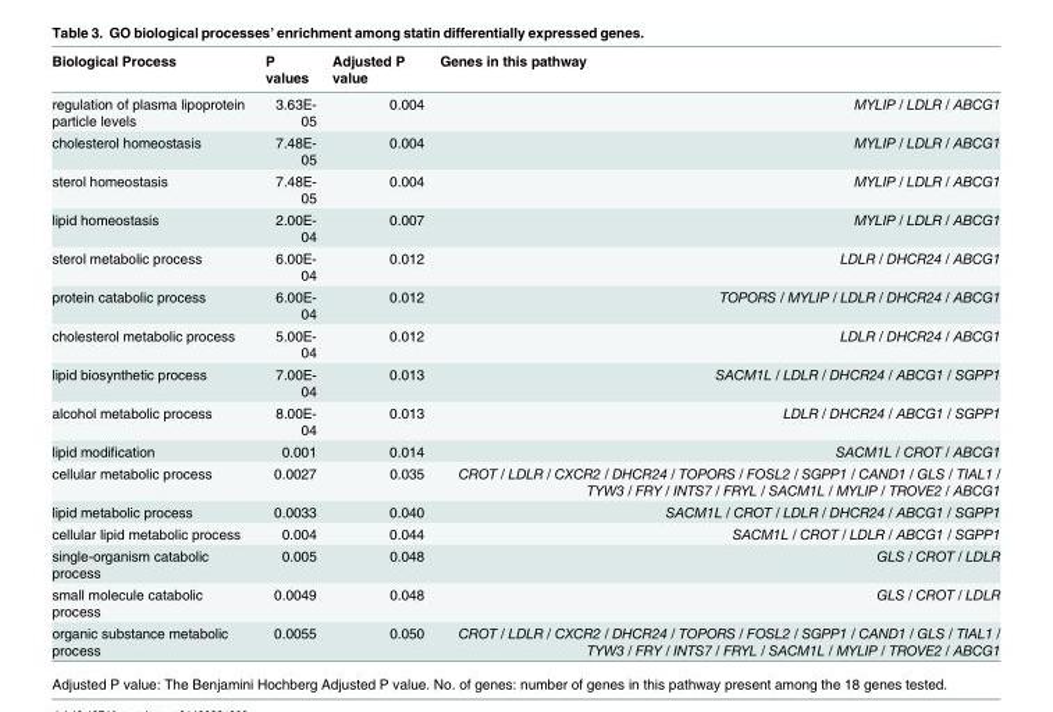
<table><thead><tr><td>Biological Process</td><td>P values</td><td>Adjusted P value</td><td>Genes in this pathway</td></tr></thead><tbody><tr><td>regulation of plasma lipoprotein particle levels</td><td>3.63E- 05</td><td>0.004</td><td>MYLIP / LDLR / ABCG1</td></tr><tr><td>cholesterol homeostasis</td><td>7.48E- 05</td><td>0.004</td><td>MYLIP / LDLR / ABCG1</td></tr><tr><td>sterol homeostasis</td><td>7.48E- 05</td><td>0.004</td><td>MYLIP / LDLR / ABCG1</td></tr><tr><td>lipid homeostasis</td><td>2.00E- 04</td><td>0.007</td><td>MYLIP / LDLR / ABCG1</td></tr><tr><td>sterol metabolic process</td><td>6.00E- 04</td><td>0.012</td><td>LDLR / DHCR24 / ABCG1</td></tr><tr><td>protein catabolic process</td><td>6.00E- 04</td><td>0.012</td><td>TOPORS / MYLIP / LDLR / DHCR24 / ABCG1</td></tr><tr><td>cholesterol metabolic process</td><td>5.00E- 04</td><td>0.012</td><td>LDLR / DHCR24 / ABCG1</td></tr><tr><td>lipid biosynthetic process</td><td>7.00E- 04</td><td>0.013</td><td>SACM1L / LDLR / DHCR24 / ABCG1 / SGPP1</td></tr><tr><td>alcohol metabolic process</td><td>8.00E- 04</td><td>0.013</td><td>LDLR / DHCR24 / ABCG1 / SGPP1</td></tr><tr><td>lipid modification</td><td>0.001</td><td>0.014</td><td>SACM1L / CROT / ABCG1</td></tr><tr><td>cellular metabolic process</td><td>0.0027</td><td>0.035</td><td>CROT / LDLR / CXCR2 / DHCR24 / TOPORS / FOSL2 / SGPP1 / CAND1 / GLS / TIAL1 / TYW3 / FRY / INTS7 / FRYL / SACM1L / MYLIP / TROVE2 / ABCG1</td></tr><tr><td>lipid metabolic process</td><td>0.0033</td><td>0.040</td><td>SACM1L / CROT / LDLR / DHCR24 / ABCG1 / SGPP1</td></tr><tr><td>cellular lipid metabolic process</td><td>0.004</td><td>0.044</td><td>SACM1L / CROT / LDLR / ABCG1 / SGPP1</td></tr><tr><td>single-organism catabolic process</td><td>0.005</td><td>0.048</td><td>GLS / CROT / LDLR</td></tr><tr><td>small molecule catabolic process</td><td>0.0049</td><td>0.048</td><td>GLS / CROT / LDLR</td></tr><tr><td>organic substance metabolic process</td><td>0.0055</td><td>0.050</td><td>CROT / LDLR / CXCR2 / DHCR24 / TOPORS / FOSL2 / SGPP1 / CAND1 / GLS / TIAL1 / TYW3 / FRY / INTS7 / FRYL / SACM1L / MYLIP / TROVE2 / ABCG1</td></tr></tbody></table>